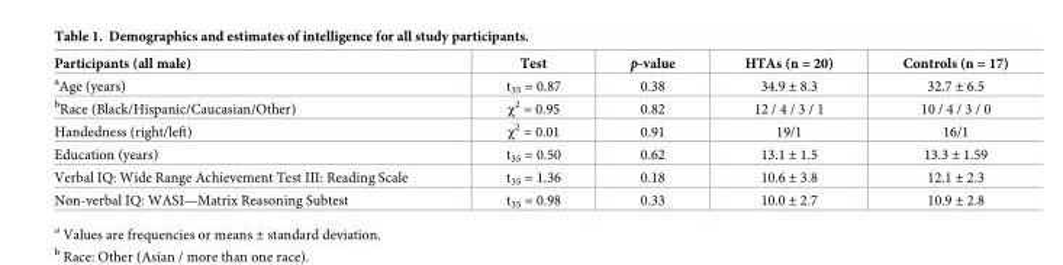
<table><thead><tr><td>Participants (all male)</td><td>Test</td><td>p-value</td><td>HTAs (n = 20)</td><td>Controls (n = 17)</td></tr></thead><tbody><tr><td><sup>a</sup>Age (years)</td><td>t<sub>35</sub> = 0.87</td><td>0.38</td><td>34.9 ± 8.3</td><td>32.7 ± 6.5</td></tr><tr><td><sup>b</sup>Race (Black/Hispanic/Caucasian/Other)</td><td>χ<sup>2</sup> = 0.95</td><td>0.82</td><td>12 / 4 / 3 / 1</td><td>10 / 4 / 3 / 0</td></tr><tr><td>Handedness (right/left)</td><td>χ<sup>2</sup> = 0.01</td><td>0.91</td><td>19/1</td><td>16/1</td></tr><tr><td>Education (years)</td><td>t<sub>35</sub> = 0.50</td><td>0.62</td><td>13.1 ± 1.5</td><td>13.3 ± 1.59</td></tr><tr><td>Verbal IQ: Wide Range Achievement Test III: Reading Scale</td><td>t<sub>35</sub> = 1.36</td><td>0.18</td><td>10.6 ± 3.8</td><td>12.1 ± 2.3</td></tr><tr><td>Non-verbal IQ: WASI—Matrix Reasoning Subtest</td><td>t<sub>35</sub> = 0.98</td><td>0.33</td><td>10.0 ± 2.7</td><td>10.9 ± 2.8</td></tr></tbody></table>